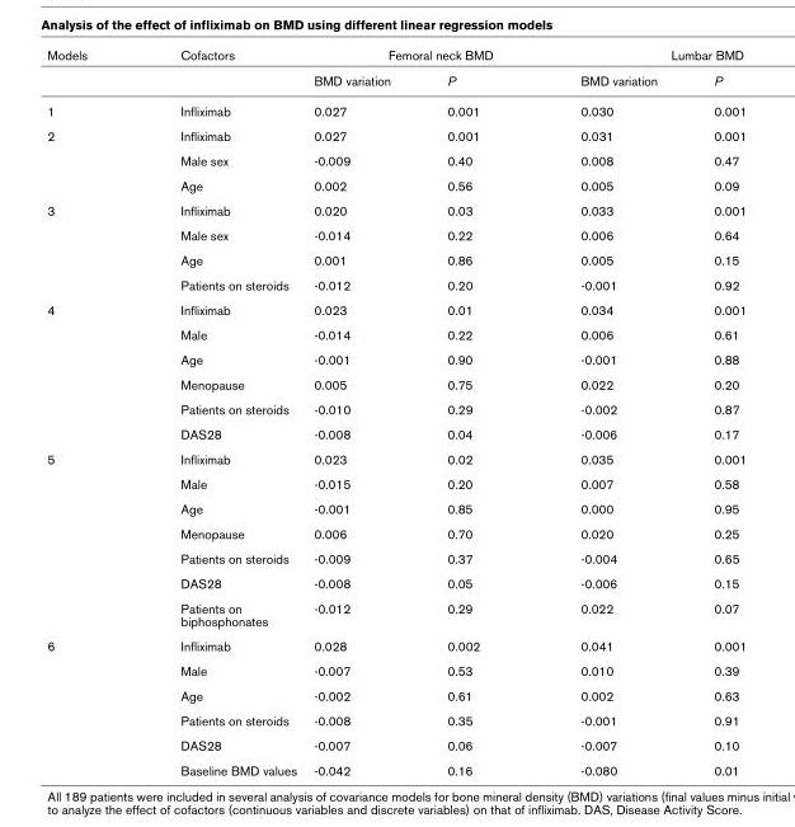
<table><thead><tr><td rowspan="2">Models</td><td rowspan="2">Cofactors</td><td colspan="2">Femoral neck BMD</td><td colspan="2">Lumbar BMD</td></tr><tr><td>BMD variation</td><td>P</td><td>BMD variation</td><td>P</td></tr></thead><tbody><tr><td>1</td><td>Infliximab</td><td>0.027</td><td>0.001</td><td>0.030</td><td>0.001</td></tr><tr><td rowspan="3">2</td><td>Infliximab</td><td>0.027</td><td>0.001</td><td>0.031</td><td>0.001</td></tr><tr><td>Male sex</td><td>-0.009</td><td>0.40</td><td>0.008</td><td>0.47</td></tr><tr><td>Age</td><td>0.002</td><td>0.56</td><td>0.005</td><td>0.09</td></tr><tr><td rowspan="4">3</td><td>Infliximab</td><td>0.020</td><td>0.03</td><td>0.033</td><td>0.001</td></tr><tr><td>Male sex</td><td>-0.014</td><td>0.22</td><td>0.006</td><td>0.64</td></tr><tr><td>Age</td><td>0.001</td><td>0.86</td><td>0.005</td><td>0.15</td></tr><tr><td>Patients on steroids</td><td>-0.012</td><td>0.20</td><td>-0.001</td><td>0.92</td></tr><tr><td rowspan="6">4</td><td>Infliximab</td><td>0.023</td><td>0.01</td><td>0.034</td><td>0.001</td></tr><tr><td>Male</td><td>-0.014</td><td>0.22</td><td>0.006</td><td>0.61</td></tr><tr><td>Age</td><td>-0.001</td><td>0.90</td><td>-0.001</td><td>0.88</td></tr><tr><td>Menopause</td><td>0.005</td><td>0.75</td><td>0.022</td><td>0.20</td></tr><tr><td>Patients on steroids</td><td>-0.010</td><td>0.29</td><td>-0.002</td><td>0.87</td></tr><tr><td>DAS28</td><td>-0.008</td><td>0.04</td><td>-0.006</td><td>0.17</td></tr><tr><td rowspan="7">5</td><td>Infliximab</td><td>0.023</td><td>0.02</td><td>0.035</td><td>0.001</td></tr><tr><td>Male</td><td>-0.015</td><td>0.20</td><td>0.007</td><td>0.58</td></tr><tr><td>Age</td><td>-0.001</td><td>0.85</td><td>0.000</td><td>0.95</td></tr><tr><td>Menopause</td><td>0.006</td><td>0.70</td><td>0.020</td><td>0.25</td></tr><tr><td>Patients on steroids</td><td>-0.009</td><td>0.37</td><td>-0.004</td><td>0.65</td></tr><tr><td>DAS28</td><td>-0.008</td><td>0.05</td><td>-0.006</td><td>0.15</td></tr><tr><td>Patients on biphosphonates</td><td>-0.012</td><td>0.29</td><td>0.022</td><td>0.07</td></tr><tr><td rowspan="6">6</td><td>Infliximab</td><td>0.028</td><td>0.002</td><td>0.041</td><td>0.001</td></tr><tr><td>Male</td><td>-0.007</td><td>0.53</td><td>0.010</td><td>0.39</td></tr><tr><td>Age</td><td>-0.002</td><td>0.61</td><td>0.002</td><td>0.63</td></tr><tr><td>Patients on steroids</td><td>-0.008</td><td>0.35</td><td>-0.001</td><td>0.91</td></tr><tr><td>DAS28</td><td>-0.007</td><td>0.06</td><td>-0.007</td><td>0.10</td></tr><tr><td>Baseline BMD values</td><td>-0.042</td><td>0.16</td><td>-0.080</td><td>0.01</td></tr></tbody></table>